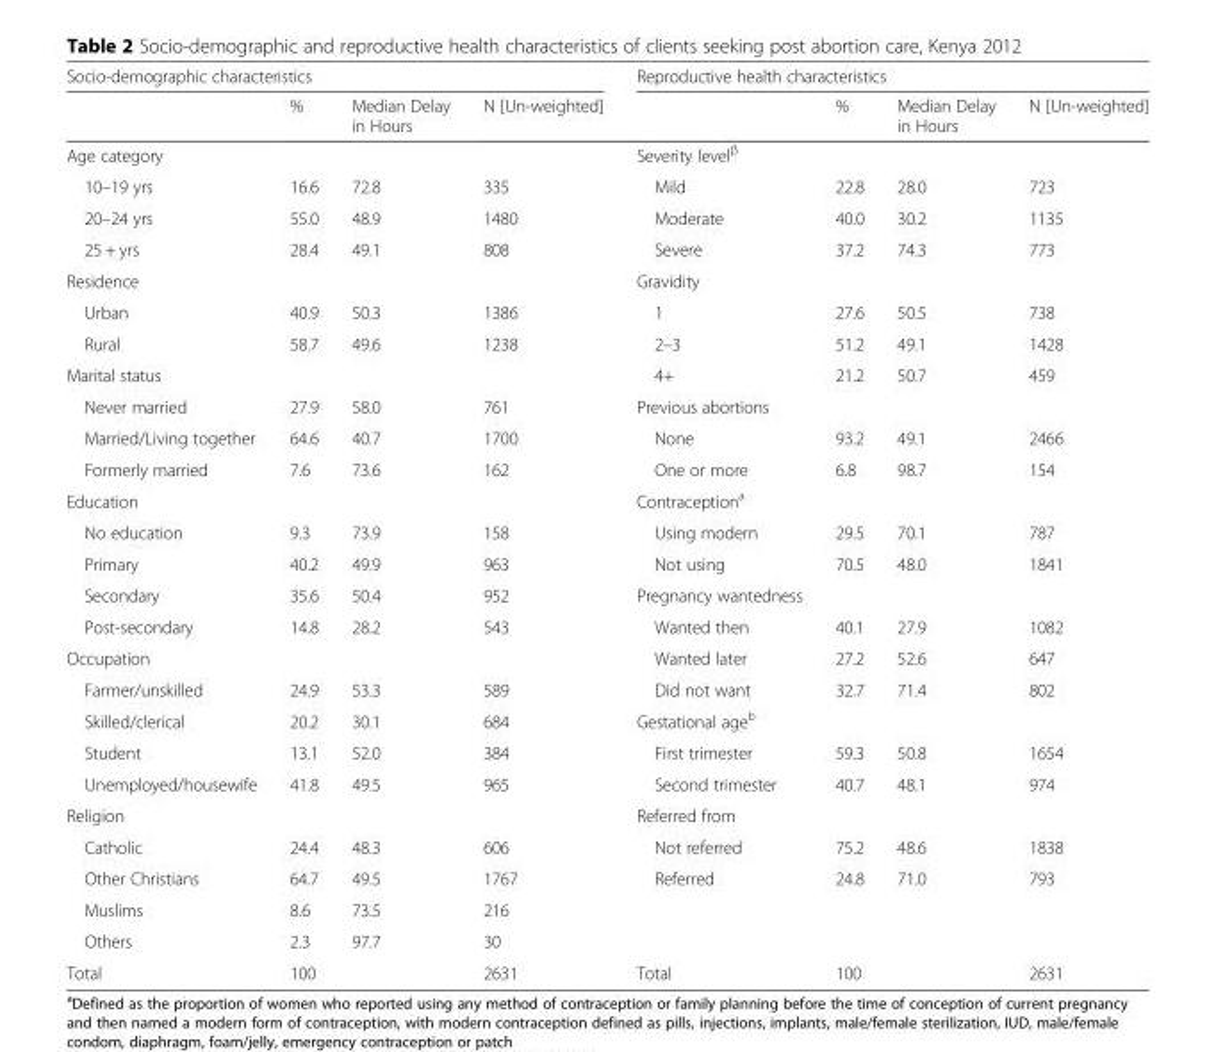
<table><thead><tr><td colspan="4">Socio-demographic characteristics</td><td colspan="4">Reproductive health characteristics</td></tr><tr><td></td><td>%</td><td>Median Delay in Hours</td><td>N [Un-weighted]</td><td></td><td>%</td><td>Median Delay in Hours</td><td>N [Un-weighted]</td></tr></thead><tbody><tr><td>Age category</td><td></td><td></td><td></td><td>Severity level<sup>β</sup></td><td></td><td></td><td></td></tr><tr><td>10–19 yrs</td><td>16.6</td><td>72.8</td><td>335</td><td>Mild</td><td>22.8</td><td>28.0</td><td>723</td></tr><tr><td>20–24 yrs</td><td>55.0</td><td>48.9</td><td>1480</td><td>Moderate</td><td>40.0</td><td>30.2</td><td>1135</td></tr><tr><td>25 + yrs</td><td>28.4</td><td>49.1</td><td>808</td><td>Severe</td><td>37.2</td><td>74.3</td><td>773</td></tr><tr><td>Residence</td><td></td><td></td><td></td><td>Gravidity</td><td></td><td></td><td></td></tr><tr><td>Urban</td><td>40.9</td><td>50.3</td><td>1386</td><td>1</td><td>27.6</td><td>50.5</td><td>738</td></tr><tr><td>Rural</td><td>58.7</td><td>49.6</td><td>1238</td><td>2–3</td><td>51.2</td><td>49.1</td><td>1428</td></tr><tr><td>Marital status</td><td></td><td></td><td></td><td>4+</td><td>21.2</td><td>50.7</td><td>459</td></tr><tr><td>Never married</td><td>27.9</td><td>58.0</td><td>761</td><td>Previous abortions</td><td></td><td></td><td></td></tr><tr><td>Married/Living together</td><td>64.6</td><td>40.7</td><td>1700</td><td>None</td><td>93.2</td><td>49.1</td><td>2466</td></tr><tr><td>Formerly married</td><td>7.6</td><td>73.6</td><td>162</td><td>One or more</td><td>6.8</td><td>98.7</td><td>154</td></tr><tr><td>Education</td><td></td><td></td><td></td><td>Contraception<sup>a</sup></td><td></td><td></td><td></td></tr><tr><td>No education</td><td>9.3</td><td>73.9</td><td>158</td><td>Using modern</td><td>29.5</td><td>70.1</td><td>787</td></tr><tr><td>Primary</td><td>40.2</td><td>49.9</td><td>963</td><td>Not using</td><td>70.5</td><td>48.0</td><td>1841</td></tr><tr><td>Secondary</td><td>35.6</td><td>50.4</td><td>952</td><td>Pregnancy wantedness</td><td></td><td></td><td></td></tr><tr><td>Post-secondary</td><td>14.8</td><td>28.2</td><td>543</td><td>Wanted then</td><td>40.1</td><td>27.9</td><td>1082</td></tr><tr><td>Occupation</td><td></td><td></td><td></td><td>Wanted later</td><td>27.2</td><td>52.6</td><td>647</td></tr><tr><td>Farmer/unskilled</td><td>24.9</td><td>53.3</td><td>589</td><td>Did not want</td><td>32.7</td><td>71.4</td><td>802</td></tr><tr><td>Skilled/clerical</td><td>20.2</td><td>30.1</td><td>684</td><td>Gestational age<sup>b</sup></td><td></td><td></td><td></td></tr><tr><td>Student</td><td>13.1</td><td>52.0</td><td>384</td><td>First trimester</td><td>59.3</td><td>50.8</td><td>1654</td></tr><tr><td>Unemployed/housewife</td><td>41.8</td><td>49.5</td><td>965</td><td>Second trimester</td><td>40.7</td><td>48.1</td><td>974</td></tr><tr><td>Religion</td><td></td><td></td><td></td><td>Referred from</td><td></td><td></td><td></td></tr><tr><td>Catholic</td><td>24.4</td><td>48.3</td><td>606</td><td>Not referred</td><td>75.2</td><td>48.6</td><td>1838</td></tr><tr><td>Other Christians</td><td>64.7</td><td>49.5</td><td>1767</td><td>Referred</td><td>24.8</td><td>71.0</td><td>793</td></tr><tr><td>Muslims</td><td>8.6</td><td>73.5</td><td>216</td><td></td><td></td><td></td><td></td></tr><tr><td>Others</td><td>2.3</td><td>97.7</td><td>30</td><td></td><td></td><td></td><td></td></tr><tr><td>Total</td><td>100</td><td></td><td>2631</td><td>Total</td><td>100</td><td></td><td>2631</td></tr></tbody></table>